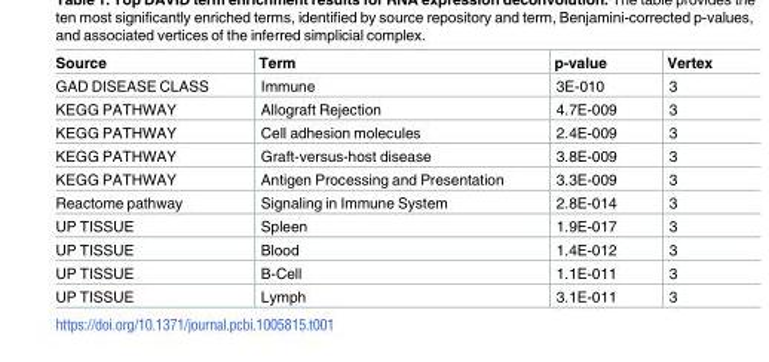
<table><thead><tr><td>Source</td><td>Term</td><td>p-value</td><td>Vertex</td></tr></thead><tbody><tr><td>GAD DISEASE CLASS</td><td>Immune</td><td>3E-010</td><td>3</td></tr><tr><td>KEGG PATHWAY</td><td>Allograft Rejection</td><td>4.7E-009</td><td>3</td></tr><tr><td>KEGG PATHWAY</td><td>Cell adhesion molecules</td><td>2.4E-009</td><td>3</td></tr><tr><td>KEGG PATHWAY</td><td>Graft-versus-host disease</td><td>3.8E-009</td><td>3</td></tr><tr><td>KEGG PATHWAY</td><td>Antigen Processing and Presentation</td><td>3.3E-009</td><td>3</td></tr><tr><td>Reactome pathway</td><td>Signaling in Immune System</td><td>2.8E-014</td><td>3</td></tr><tr><td>UP TISSUE</td><td>Spleen</td><td>1.9E-017</td><td>3</td></tr><tr><td>UP TISSUE</td><td>Blood</td><td>1.4E-012</td><td>3</td></tr><tr><td>UP TISSUE</td><td>B-Cell</td><td>1.1E-011</td><td>3</td></tr><tr><td>UP TISSUE</td><td>Lymph</td><td>3.1E-011</td><td>3</td></tr></tbody></table>